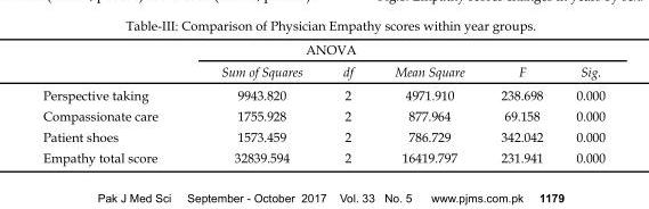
<table><thead><tr><td rowspan="2"></td><td colspan="5">ANOVA</td></tr><tr><td>Sum of Squares</td><td>df</td><td>Mean Square</td><td>F</td><td>Sig.</td></tr></thead><tbody><tr><td>Perspective taking</td><td>9943.820</td><td>2</td><td>4971.910</td><td>238.698</td><td>0.000</td></tr><tr><td>Compassionate care</td><td>1755.928</td><td>2</td><td>877.964</td><td>69.158</td><td>0.000</td></tr><tr><td>Patient shoes</td><td>1573.459</td><td>2</td><td>786.729</td><td>342.042</td><td>0.000</td></tr><tr><td>Empathy total score</td><td>32839.594</td><td>2</td><td>16419.797</td><td>231.941</td><td>0.000</td></tr></tbody></table>